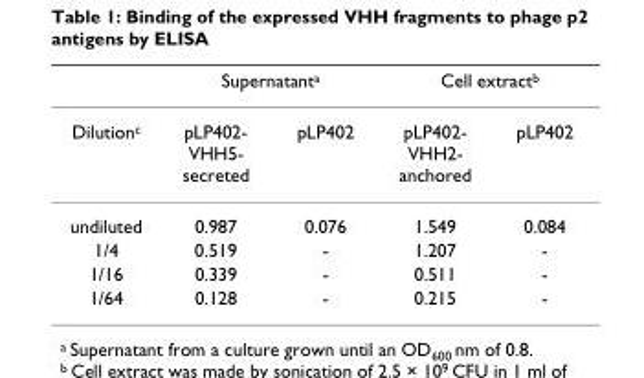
<table><thead><tr><td rowspan="2">Dilution<sup>c</sup></td><td colspan="2">Supernatant<sup>a</sup></td><td colspan="2">Cell extract<sup>b</sup></td></tr><tr><td>pLP402- VHH5- secreted</td><td>pLP402</td><td>pLP402- VHH2- anchored</td><td>pLP402</td></tr></thead><tbody><tr><td>undiluted</td><td>0.987</td><td>0.076</td><td>1.549</td><td>0.084</td></tr><tr><td>1/4</td><td>0.519</td><td>-</td><td>1.207</td><td>-</td></tr><tr><td>1/16</td><td>0.339</td><td>-</td><td>0.511</td><td>-</td></tr><tr><td>1/64</td><td>0.128</td><td>-</td><td>0.215</td><td>-</td></tr></tbody></table>